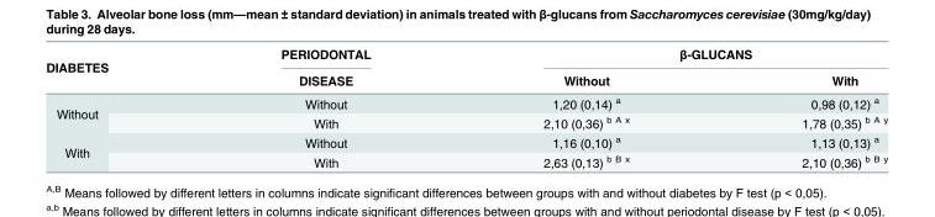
<table><thead><tr><td rowspan="2">DIABETES</td><td rowspan="2">PERIODONTAL DISEASE</td><td colspan="2">β-GLUCANS</td></tr><tr><td>Without</td><td>With</td></tr></thead><tbody><tr><td rowspan="2">Without</td><td>Without</td><td>1,20 (0,14) <sup>a</sup></td><td>0,98 (0,12) <sup>a</sup></td></tr><tr><td>With</td><td>2,10 (0,36) <sup>b A x</sup></td><td>1,78 (0,35) <sup>b A y</sup></td></tr><tr><td rowspan="2">With</td><td>Without</td><td>1,16 (0,10) <sup>a</sup></td><td>1,13 (0,13) <sup>a</sup></td></tr><tr><td>With</td><td>2,63 (0,13) <sup>b B x</sup></td><td>2,10 (0,36) <sup>b B y</sup></td></tr></tbody></table>